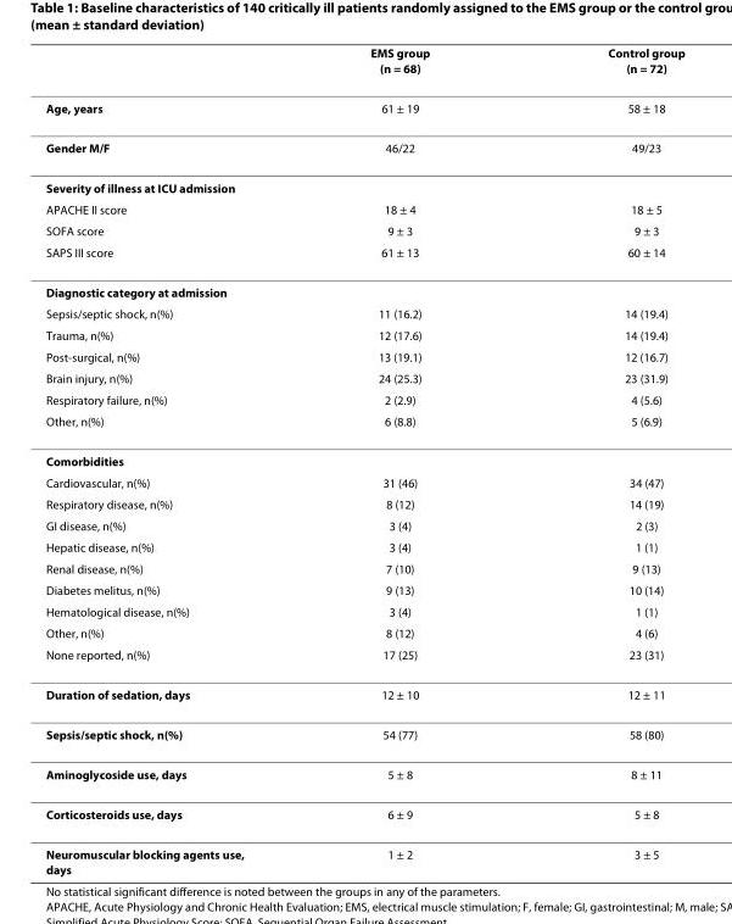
<table><thead><tr><td></td><td>EMS group (n = 68)</td><td>Control group (n = 72)</td></tr></thead><tbody><tr><td>Age, years</td><td>61 ± 19</td><td>58 ± 18</td></tr><tr><td>Gender M/F</td><td>46/22</td><td>49/23</td></tr><tr><td colspan="3">Severity of illness at ICU admission</td></tr><tr><td>APACHE II score</td><td>18 ± 4</td><td>18 ± 5</td></tr><tr><td>SOFA score</td><td>9 ± 3</td><td>9 ± 3</td></tr><tr><td>SAPS III score</td><td>61 ± 13</td><td>60 ± 14</td></tr><tr><td colspan="3">Diagnostic category at admission</td></tr><tr><td>Sepsis/septic shock, n(%)</td><td>11 (16.2)</td><td>14 (19.4)</td></tr><tr><td>Trauma, n(%)</td><td>12 (17.6)</td><td>14 (19.4)</td></tr><tr><td>Post-surgical, n(%)</td><td>13 (19.1)</td><td>12 (16.7)</td></tr><tr><td>Brain injury, n(%)</td><td>24 (25.3)</td><td>23 (31.9)</td></tr><tr><td>Respiratory failure, n(%)</td><td>2 (2.9)</td><td>4 (5.6)</td></tr><tr><td>Other, n(%)</td><td>6 (8.8)</td><td>5 (6.9)</td></tr><tr><td colspan="3">Comorbidities</td></tr><tr><td>Cardiovascular, n(%)</td><td>31 (46)</td><td>34 (47)</td></tr><tr><td>Respiratory disease, n(%)</td><td>8 (12)</td><td>14 (19)</td></tr><tr><td>GI disease, n(%)</td><td>3 (4)</td><td>2 (3)</td></tr><tr><td>Hepatic disease, n(%)</td><td>3 (4)</td><td>1 (1)</td></tr><tr><td>Renal disease, n(%)</td><td>7 (10)</td><td>9 (13)</td></tr><tr><td>Diabetes melitus, n(%)</td><td>9 (13)</td><td>10 (14)</td></tr><tr><td>Hematological disease, n(%)</td><td>3 (4)</td><td>1 (1)</td></tr><tr><td>Other, n(%)</td><td>8 (12)</td><td>4 (6)</td></tr><tr><td>None reported, n(%)</td><td>17 (25)</td><td>23 (31)</td></tr><tr><td>Duration of sedation, days</td><td>12 ± 10</td><td>12 ± 11</td></tr><tr><td>Sepsis/septic shock, n(%)</td><td>54 (77)</td><td>58 (80)</td></tr><tr><td>Aminoglycoside use, days</td><td>5 ± 8</td><td>8 ± 11</td></tr><tr><td>Corticosteroids use, days</td><td>6 ± 9</td><td>5 ± 8</td></tr><tr><td>Neuromuscular blocking agents use, days</td><td>1 ± 2</td><td>3 ± 5</td></tr></tbody></table>